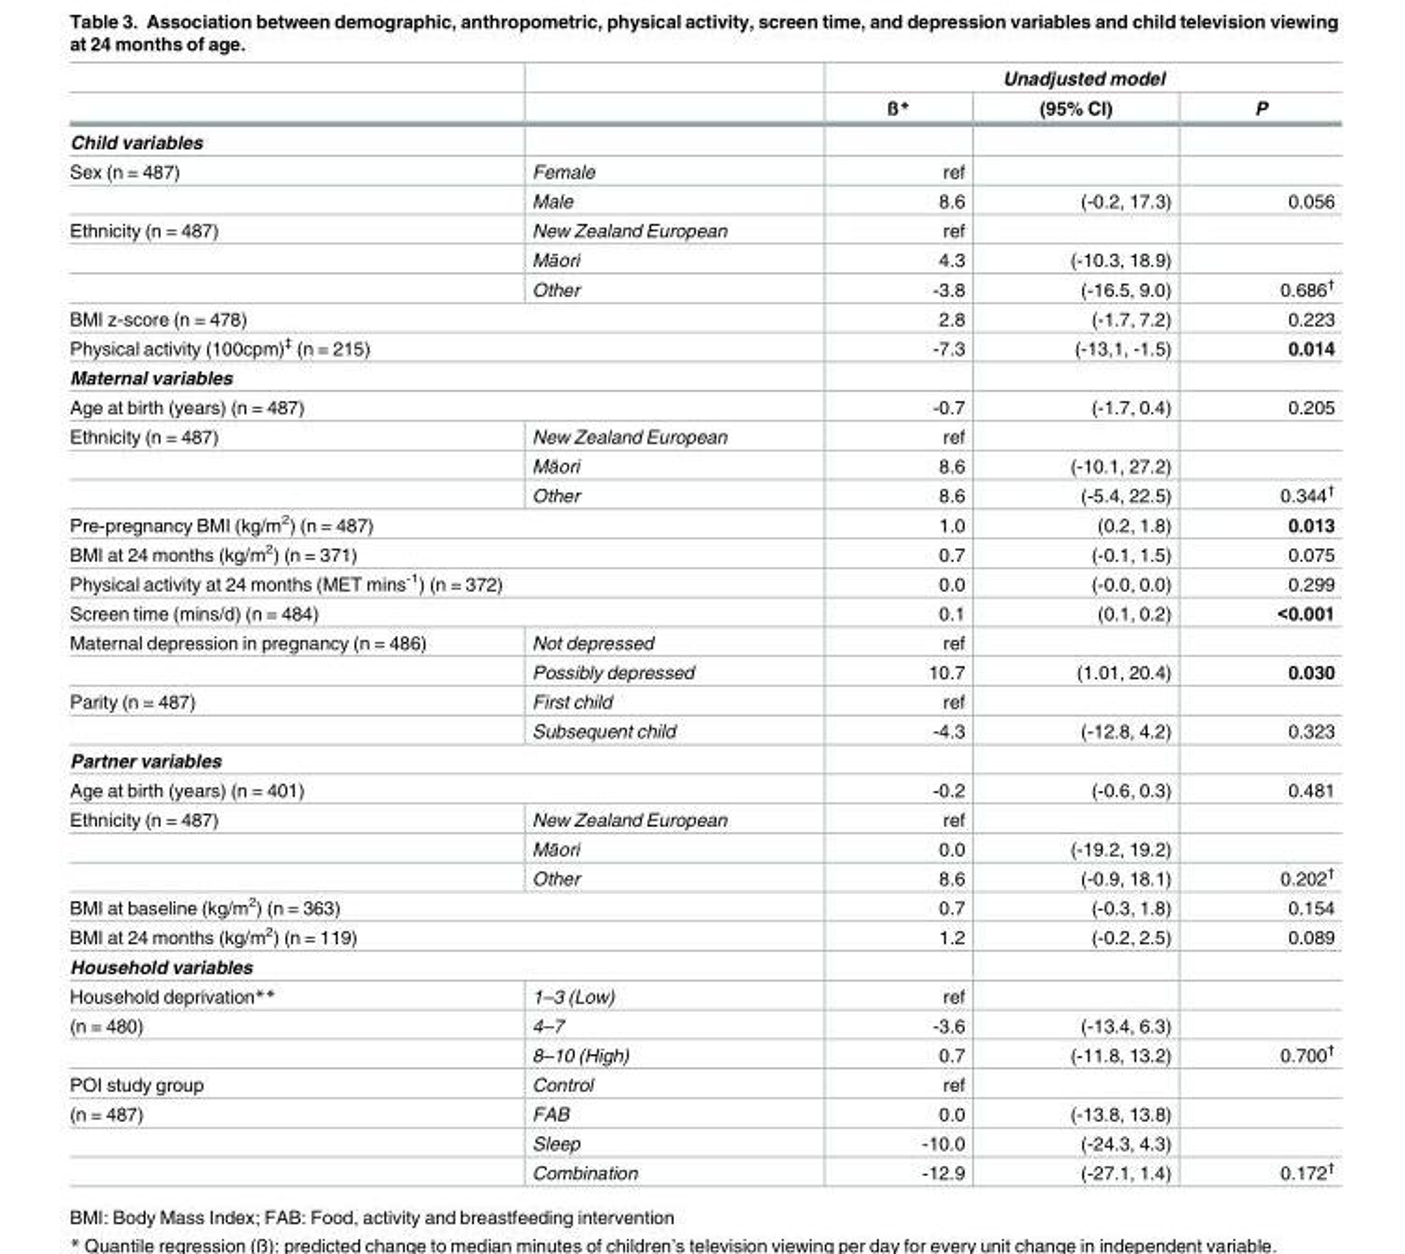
<table><thead><tr><td rowspan="2"></td><td rowspan="2"></td><td colspan="3">Unadjusted model</td></tr><tr><td>ß*</td><td>(95% CI)</td><td>P</td></tr></thead><tbody><tr><td colspan="5">Child variables</td></tr><tr><td rowspan="2">Sex (n = 487)</td><td>Female</td><td>ref</td><td></td><td></td></tr><tr><td>Male</td><td>8.6</td><td>(-0.2, 17.3)</td><td>0.056</td></tr><tr><td rowspan="3">Ethnicity (n = 487)</td><td>New Zealand European</td><td>ref</td><td></td><td></td></tr><tr><td>Māori</td><td>4.3</td><td>(-10.3, 18.9)</td><td></td></tr><tr><td>Other</td><td>-3.8</td><td>(-16.5, 9.0)</td><td>0.686<sup>†</sup></td></tr><tr><td colspan="2">BMI z-score (n = 478)</td><td>2.8</td><td>(-1.7, 7.2)</td><td>0.223</td></tr><tr><td colspan="2">Physical activity (100cpm)<sup>‡</sup> (n = 215)</td><td>-7.3</td><td>(-13,1, -1.5)</td><td>0.014</td></tr><tr><td colspan="5">Maternal variables</td></tr><tr><td colspan="2">Age at birth (years) (n = 487)</td><td>-0.7</td><td>(-1.7, 0.4)</td><td>0.205</td></tr><tr><td rowspan="3">Ethnicity (n = 487)</td><td>New Zealand European</td><td>ref</td><td></td><td></td></tr><tr><td>Māori</td><td>8.6</td><td>(-10.1, 27.2)</td><td></td></tr><tr><td>Other</td><td>8.6</td><td>(-5.4, 22.5)</td><td>0.344<sup>†</sup></td></tr><tr><td colspan="2">Pre-pregnancy BMI (kg/m<sup>2</sup>) (n = 487)</td><td>1.0</td><td>(0.2, 1.8)</td><td>0.013</td></tr><tr><td colspan="2">BMI at 24 months (kg/m<sup>2</sup>) (n = 371)</td><td>0.7</td><td>(-0.1, 1.5)</td><td>0.075</td></tr><tr><td colspan="2">Physical activity at 24 months (MET mins<sup>-1</sup>) (n = 372)</td><td>0.0</td><td>(-0.0, 0.0)</td><td>0.299</td></tr><tr><td colspan="2">Screen time (mins/d) (n = 484)</td><td>0.1</td><td>(0.1, 0.2)</td><td>&lt;0.001</td></tr><tr><td rowspan="2">Maternal depression in pregnancy (n = 486)</td><td>Not depressed</td><td>ref</td><td></td><td></td></tr><tr><td>Possibly depressed</td><td>10.7</td><td>(1.01, 20.4)</td><td>0.030</td></tr><tr><td rowspan="2">Parity (n = 487)</td><td>First child</td><td>ref</td><td></td><td></td></tr><tr><td>Subsequent child</td><td>-4.3</td><td>(-12.8, 4.2)</td><td>0.323</td></tr><tr><td colspan="5">Partner variables</td></tr><tr><td colspan="2">Age at birth (years) (n = 401)</td><td>-0.2</td><td>(-0.6, 0.3)</td><td>0.481</td></tr><tr><td rowspan="3">Ethnicity (n = 487)</td><td>New Zealand European</td><td>ref</td><td></td><td></td></tr><tr><td>Māori</td><td>0.0</td><td>(-19.2, 19.2)</td><td></td></tr><tr><td>Other</td><td>8.6</td><td>(-0.9, 18.1)</td><td>0.202<sup>†</sup></td></tr><tr><td colspan="2">BMI at baseline (kg/m<sup>2</sup>) (n = 363)</td><td>0.7</td><td>(-0.3, 1.8)</td><td>0.154</td></tr><tr><td colspan="2">BMI at 24 months (kg/m<sup>2</sup>) (n = 119)</td><td>1.2</td><td>(-0.2, 2.5)</td><td>0.089</td></tr><tr><td colspan="5">Household variables</td></tr><tr><td>Household deprivation**</td><td>1–3 (Low)</td><td>ref</td><td></td><td></td></tr><tr><td rowspan="2">(n = 480)</td><td>4–7</td><td>-3.6</td><td>(-13.4, 6.3)</td><td></td></tr><tr><td>8–10 (High)</td><td>0.7</td><td>(-11.8, 13.2)</td><td>0.700<sup>†</sup></td></tr><tr><td>POI study group</td><td>Control</td><td>ref</td><td></td><td></td></tr><tr><td rowspan="3">(n = 487)</td><td>FAB</td><td>0.0</td><td>(-13.8, 13.8)</td><td></td></tr><tr><td>Sleep</td><td>-10.0</td><td>(-24.3, 4.3)</td><td></td></tr><tr><td>Combination</td><td>-12.9</td><td>(-27.1, 1.4)</td><td>0.172<sup>†</sup></td></tr></tbody></table>